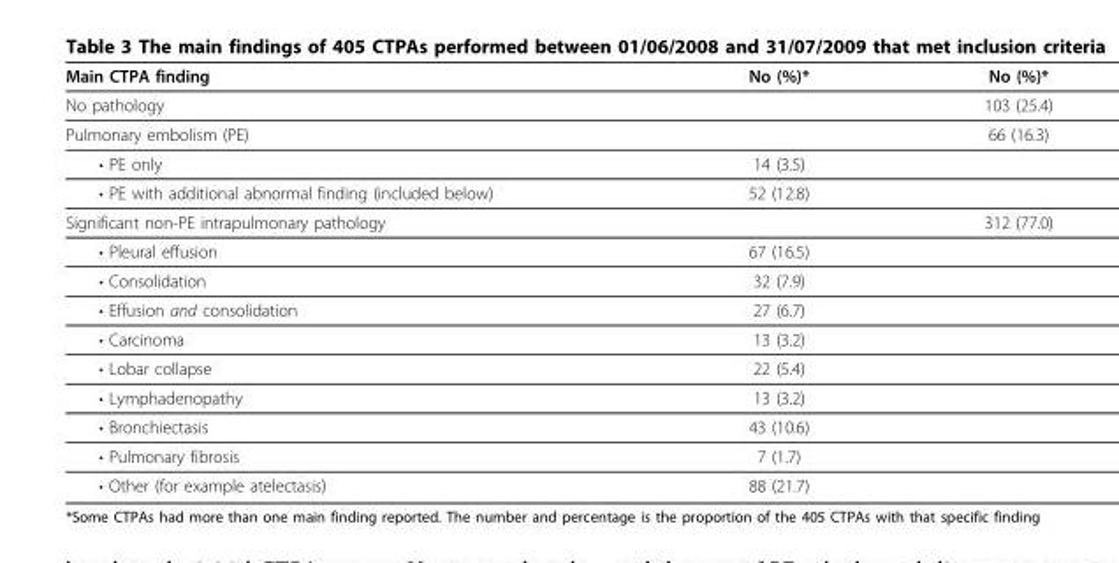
<table><thead><tr><td>Main CTPA finding</td><td>No (%)*</td><td>No (%)*</td></tr></thead><tbody><tr><td>No pathology</td><td></td><td>103 (25.4)</td></tr><tr><td>Pulmonary embolism (PE)</td><td></td><td>66 (16.3)</td></tr><tr><td>• PE only</td><td>14 (3.5)</td><td></td></tr><tr><td>• PE with additional abnormal finding (included below)</td><td>52 (12.8)</td><td></td></tr><tr><td>Significant non-PE intrapulmonary pathology</td><td></td><td>312 (77.0)</td></tr><tr><td>• Pleural effusion</td><td>67 (16.5)</td><td></td></tr><tr><td>• Consolidation</td><td>32 (7.9)</td><td></td></tr><tr><td>• Effusion and consolidation</td><td>27 (6.7)</td><td></td></tr><tr><td>• Carcinoma</td><td>13 (3.2)</td><td></td></tr><tr><td>• Lobar collapse</td><td>22 (5.4)</td><td></td></tr><tr><td>• Lymphadenopathy</td><td>13 (3.2)</td><td></td></tr><tr><td>• Bronchiectasis</td><td>43 (10.6)</td><td></td></tr><tr><td>• Pulmonary fibrosis</td><td>7 (1.7)</td><td></td></tr><tr><td>• Other (for example atelectasis)</td><td>88 (21.7)</td><td></td></tr></tbody></table>